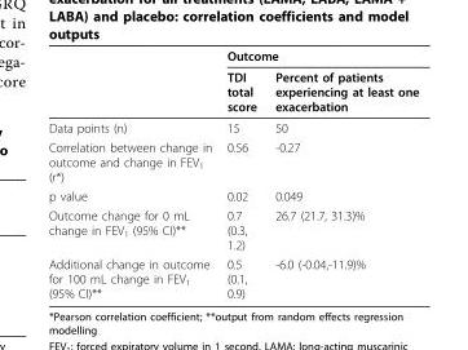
<table><thead><tr><td rowspan="2"></td><td colspan="2">Outcome</td></tr><tr><td>TDI total score</td><td>Percent of patients experiencing at least one exacerbation</td></tr></thead><tbody><tr><td>Data points (n)</td><td>15</td><td>50</td></tr><tr><td>Correlation between change in outcome and change in FEV<sub>1</sub> (r*)</td><td>0.56</td><td>-0.27</td></tr><tr><td>p value</td><td>0.02</td><td>0.049</td></tr><tr><td>Outcome change for 0 mL change in FEV<sub>1</sub> (95% CI)**</td><td>0.7 (0.3, 1.2)</td><td>26.7 (21.7, 31.3)%</td></tr><tr><td>Additional change in outcome for 100 mL change in FEV<sub>1</sub> (95% CI)**</td><td>0.5 (0.1, 0.9)</td><td>-6.0 (-0.04,-11.9)%</td></tr></tbody></table>